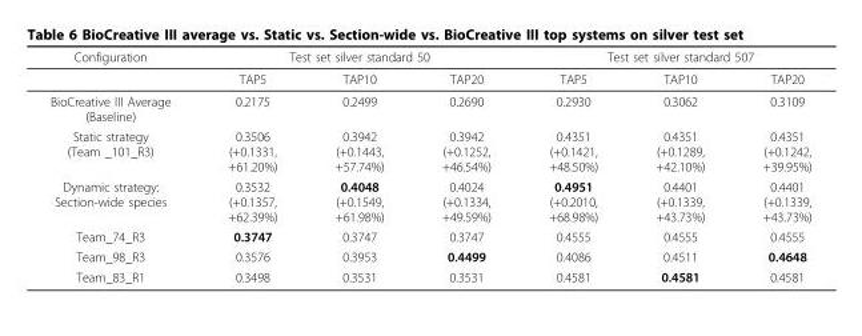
<table><thead><tr><td rowspan="2">Configuration</td><td colspan="3">Test set silver standard 50</td><td colspan="3">Test set silver standard 507</td></tr><tr><td>TAP5</td><td>TAP10</td><td>TAP20</td><td>TAP5</td><td>TAP10</td><td>TAP20</td></tr></thead><tbody><tr><td>BioCreative III Average (Baseline)</td><td>0.2175</td><td>0.2499</td><td>0.2690</td><td>0.2930</td><td>0.3062</td><td>0.3109</td></tr><tr><td>Static strategy (Team _101_R3)</td><td>0.3506 (+0.1331, +61.20%)</td><td>0.3942 (+0.1443, +57.74%)</td><td>0.3942 (+0.1252, +46.54%)</td><td>0.4351 (+0.1421, +48.50%)</td><td>0.4351 (+0.1289, +42.10%)</td><td>0.4351 (+0.1242, +39.95%)</td></tr><tr><td>Dynamic strategy: Section-wide species</td><td>0.3532 (+0.1357, +62.39%)</td><td>0.4048 (+0.1549, +61.98%)</td><td>0.4024 (+0.1334, +49.59%)</td><td>0.4951 (+0.2010, +68.98%)</td><td>0.4401 (+0.1339, +43.73%)</td><td>0.4401 (+0.1339, +43.73%)</td></tr><tr><td>Team_74_R3</td><td>0.3747</td><td>0.3747</td><td>0.3747</td><td>0.4555</td><td>0.4555</td><td>0.4555</td></tr><tr><td>Team_98_R3</td><td>0.3576</td><td>0.3953</td><td>0.4499</td><td>0.4086</td><td>0.4511</td><td>0.4648</td></tr><tr><td>Team_83_R1</td><td>0.3498</td><td>0.3531</td><td>0.3531</td><td>0.4581</td><td>0.4581</td><td>0.4581</td></tr></tbody></table>